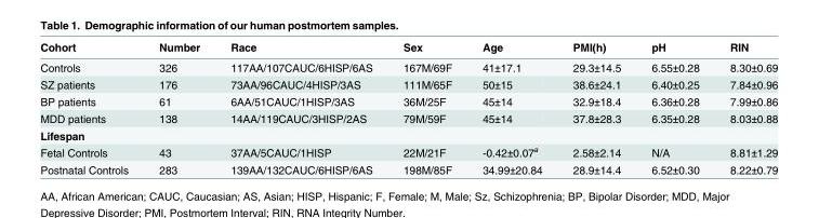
<table><thead><tr><td>Cohort</td><td>Number</td><td>Race</td><td>Sex</td><td>Age</td><td>PMI(h)</td><td>pH</td><td>RIN</td></tr></thead><tbody><tr><td>Controls</td><td>326</td><td>117AA/107CAUC/6HISP/6AS</td><td>167M/69F</td><td>41±17.1</td><td>29.3±14.5</td><td>6.55±0.28</td><td>8.30±0.69</td></tr><tr><td>SZ patients</td><td>176</td><td>73AA/96CAUC/4HISP/3AS</td><td>111M/65F</td><td>50±15</td><td>38.6±24.1</td><td>6.40±0.25</td><td>7.84±0.96</td></tr><tr><td>BP patients</td><td>61</td><td>6AA/51CAUC/1HISP/3AS</td><td>36M/25F</td><td>45±14</td><td>32.9±18.4</td><td>6.36±0.28</td><td>7.99±0.86</td></tr><tr><td>MDD patients</td><td>138</td><td>14AA/119CAUC/3HISP/2AS</td><td>79M/59F</td><td>45±14</td><td>37.8±28.3</td><td>6.35±0.28</td><td>8.03±0.88</td></tr><tr><td colspan="8">Lifespan</td></tr><tr><td>Fetal Controls</td><td>43</td><td>37AA/5CAUC/1HISP</td><td>22M/21F</td><td>-0.42±0.07<sup>a</sup></td><td>2.58±2.14</td><td>N/A</td><td>8.81±1.29</td></tr><tr><td>Postnatal Controls</td><td>283</td><td>139AA/132CAUC/6HISP/6AS</td><td>198M/85F</td><td>34.99±20.84</td><td>28.9±14.4</td><td>6.52±0.30</td><td>8.22±0.79</td></tr></tbody></table>